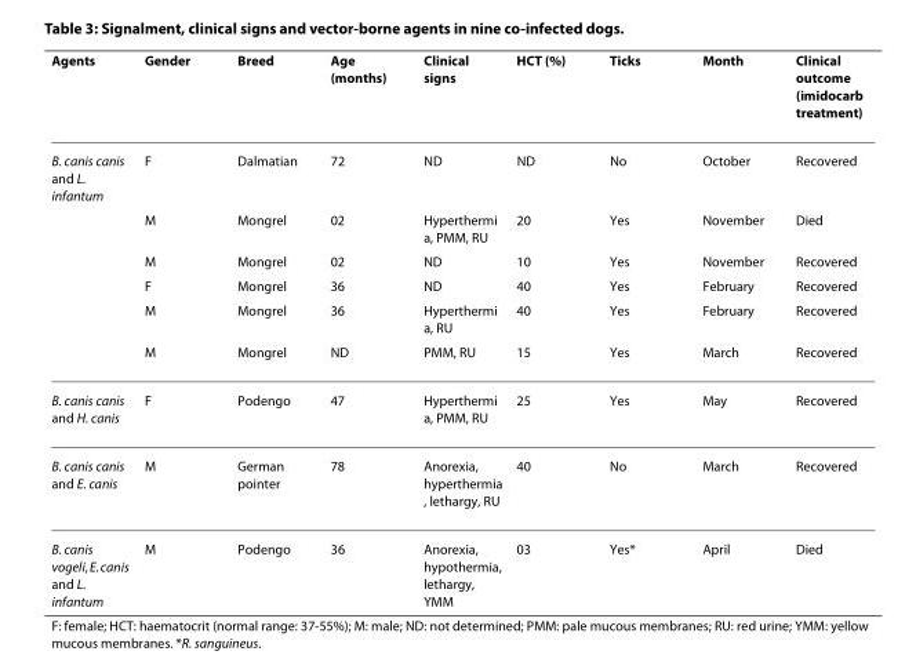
<table><thead><tr><td>Agents</td><td>Gender</td><td>Breed</td><td>Age (months)</td><td>Clinical signs</td><td>HCT (%)</td><td>Ticks</td><td>Month</td><td>Clinical outcome (imidocarb treatment)</td></tr></thead><tbody><tr><td rowspan="6">B. canis canis and L. infantum</td><td>F</td><td>Dalmatian</td><td>72</td><td>ND</td><td>ND</td><td>No</td><td>October</td><td>Recovered</td></tr><tr><td>M</td><td>Mongrel</td><td>02</td><td>Hyperthermi a, PMM, RU</td><td>20</td><td>Yes</td><td>November</td><td>Died</td></tr><tr><td>M</td><td>Mongrel</td><td>02</td><td>ND</td><td>10</td><td>Yes</td><td>November</td><td>Recovered</td></tr><tr><td>F</td><td>Mongrel</td><td>36</td><td>ND</td><td>40</td><td>Yes</td><td>February</td><td>Recovered</td></tr><tr><td>M</td><td>Mongrel</td><td>36</td><td>Hyperthermi a, RU</td><td>40</td><td>Yes</td><td>February</td><td>Recovered</td></tr><tr><td>M</td><td>Mongrel</td><td>ND</td><td>PMM, RU</td><td>15</td><td>Yes</td><td>March</td><td>Recovered</td></tr><tr><td>B. canis canis and H. canis</td><td>F</td><td>Podengo</td><td>47</td><td>Hyperthermi a, PMM, RU</td><td>25</td><td>Yes</td><td>May</td><td>Recovered</td></tr><tr><td>B. canis canis and E. canis</td><td>M</td><td>German pointer</td><td>78</td><td>Anorexia, hyperthermia , lethargy, RU</td><td>40</td><td>No</td><td>March</td><td>Recovered</td></tr><tr><td>B. canis vogeli, E. canis and L. infantum</td><td>M</td><td>Podengo</td><td>36</td><td>Anorexia, hypothermia, lethargy, YMM</td><td>03</td><td>Yes*</td><td>April</td><td>Died</td></tr></tbody></table>